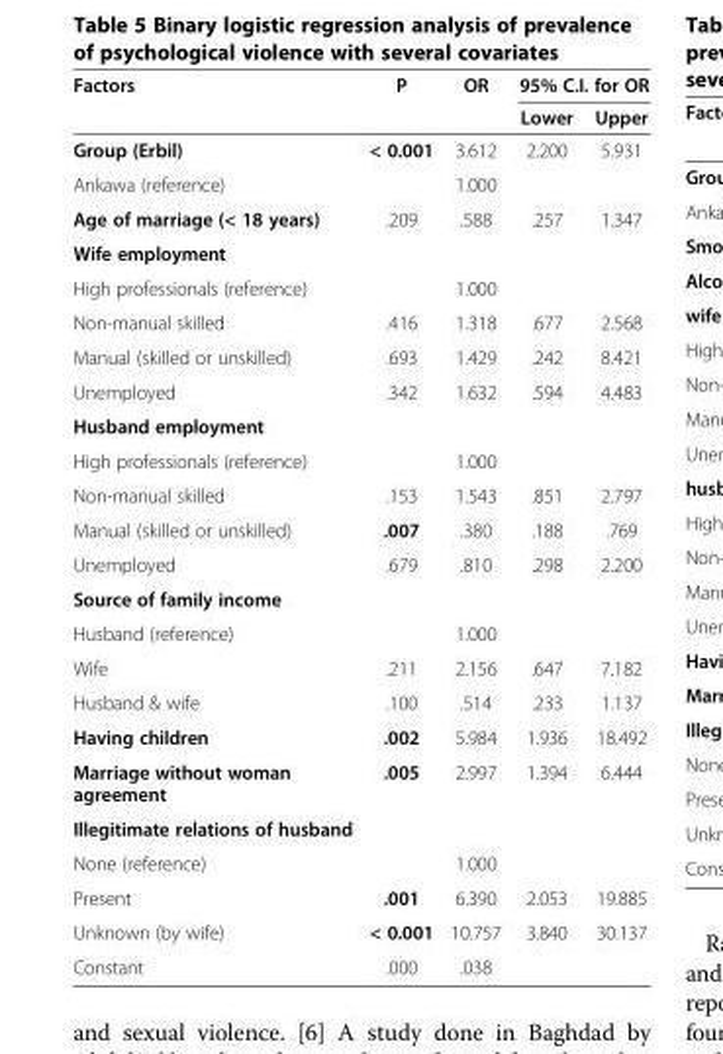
<table><thead><tr><td rowspan="2">Factors</td><td rowspan="2">P</td><td rowspan="2">OR</td><td colspan="2">95% C.I. for OR</td></tr><tr><td>Lower</td><td>Upper</td></tr></thead><tbody><tr><td>Group (Erbil)</td><td>&lt; 0.001</td><td>3.612</td><td>2.200</td><td>5.931</td></tr><tr><td>Ankawa (reference)</td><td></td><td>1.000</td><td></td><td></td></tr><tr><td>Age of marriage (&lt; 18 years)</td><td>.209</td><td>.588</td><td>.257</td><td>1.347</td></tr><tr><td colspan="5">Wife employment</td></tr><tr><td>High professionals (reference)</td><td></td><td>1.000</td><td></td><td></td></tr><tr><td>Non-manual skilled</td><td>.416</td><td>1.318</td><td>.677</td><td>2.568</td></tr><tr><td>Manual (skilled or unskilled)</td><td>.693</td><td>1.429</td><td>.242</td><td>8.421</td></tr><tr><td>Unemployed</td><td>.342</td><td>1.632</td><td>.594</td><td>4.483</td></tr><tr><td colspan="5">Husband employment</td></tr><tr><td>High professionals (reference)</td><td></td><td>1.000</td><td></td><td></td></tr><tr><td>Non-manual skilled</td><td>.153</td><td>1.543</td><td>.851</td><td>2.797</td></tr><tr><td>Manual (skilled or unskilled)</td><td>.007</td><td>.380</td><td>.188</td><td>.769</td></tr><tr><td>Unemployed</td><td>.679</td><td>.810</td><td>.298</td><td>2.200</td></tr><tr><td colspan="5">Source of family income</td></tr><tr><td>Husband (reference)</td><td></td><td>1.000</td><td></td><td></td></tr><tr><td>Wife</td><td>.211</td><td>2.156</td><td>.647</td><td>7.182</td></tr><tr><td>Husband &amp; wife</td><td>.100</td><td>.514</td><td>.233</td><td>1.137</td></tr><tr><td>Having children</td><td>.002</td><td>5.984</td><td>1.936</td><td>18.492</td></tr><tr><td>Marriage without woman agreement</td><td>.005</td><td>2.997</td><td>1.394</td><td>6.444</td></tr><tr><td colspan="5">Illegitimate relations of husband</td></tr><tr><td>None (reference)</td><td></td><td>1.000</td><td></td><td></td></tr><tr><td>Present</td><td>.001</td><td>6.390</td><td>2.053</td><td>19.885</td></tr><tr><td>Unknown (by wife)</td><td>&lt; 0.001</td><td>10.757</td><td>3.840</td><td>30.137</td></tr><tr><td>Constant</td><td>.000</td><td>.038</td><td></td><td></td></tr></tbody></table>